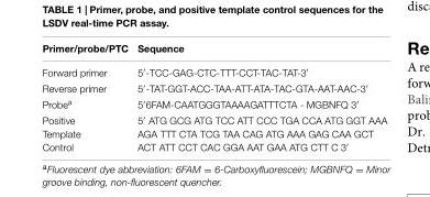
<table><thead><tr><td>Primer/probe/PTC</td><td>Sequence</td></tr></thead><tbody><tr><td>Forward primer</td><td>5′-TCC-GAG-CTC-TTT-CCT-TAC-TAT-3′</td></tr><tr><td>Reverse primer</td><td>5′-TAT-GGT-ACC-TAA-ATT-ATA-TAC-GTA-AAT-AAC-3′</td></tr><tr><td>Probe<sup>a</sup></td><td>5′6FAM-CAATGGGTAAAAGATTTCTA - MGBNFQ 3′</td></tr><tr><td>Positive Template Control</td><td>5′ ATG GCG ATG TCC ATT CCC TGA CCA ATG GGT AAA AGA TTT CTA TCG TAA CAG ATG AAA GAG CAA GCT ACT ATT CCT CAC GGA AAT GAA ATG CTT C 3′</td></tr></tbody></table>